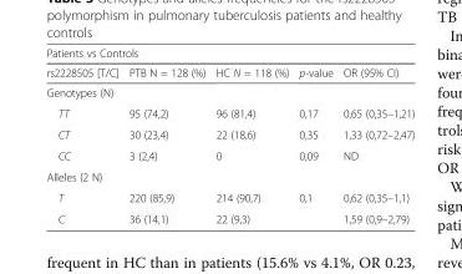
<table><thead><tr><td colspan="5">Patients vs Controls</td></tr><tr><td>rs2228505 [T/C]</td><td>PTB N = 128 (%)</td><td>HC N = 118 (%)</td><td>p-value</td><td>OR (95% CI)</td></tr></thead><tbody><tr><td colspan="5">Genotypes (N)</td></tr><tr><td>TT</td><td>95 (74,2)</td><td>96 (81,4)</td><td>0,17</td><td>0,65 (0,35–1,21)</td></tr><tr><td>CT</td><td>30 (23,4)</td><td>22 (18,6)</td><td>0,35</td><td>1,33 (0,72–2,47)</td></tr><tr><td>CC</td><td>3 (2,4)</td><td>0</td><td>0,09</td><td>ND</td></tr><tr><td colspan="5">Alleles (2 N)</td></tr><tr><td>T</td><td>220 (85,9)</td><td>214 (90,7)</td><td>0,1</td><td>0,62 (0,35–1,1)</td></tr><tr><td>C</td><td>36 (14,1)</td><td>22 (9,3)</td><td></td><td>1,59 (0,9–2,79)</td></tr></tbody></table>